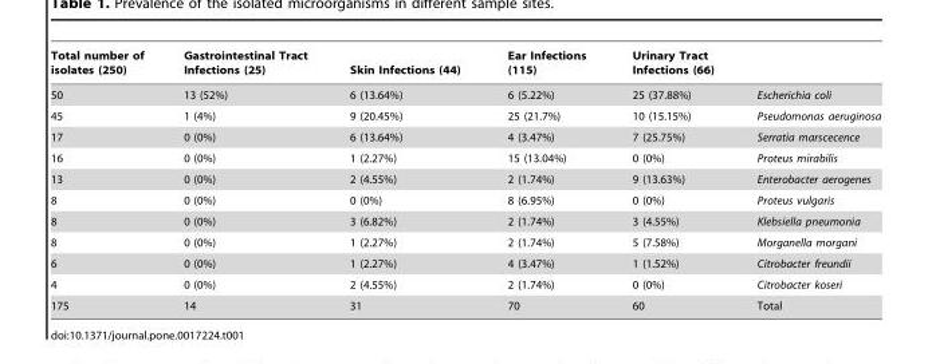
<table><thead><tr><td>Total number of isolates (250)</td><td>Gastrointestinal Tract Infections (25)</td><td>Skin Infections (44)</td><td>Ear Infections (115)</td><td>Urinary Tract Infections (66)</td><td></td></tr></thead><tbody><tr><td>50</td><td>13 (52%)</td><td>6 (13.64%)</td><td>6 (5.22%)</td><td>25 (37.88%)</td><td>Escherichia coli</td></tr><tr><td>45</td><td>1 (4%)</td><td>9 (20.45%)</td><td>25 (21.7%)</td><td>10 (15.15%)</td><td>Pseudomonas aeruginosa</td></tr><tr><td>17</td><td>0 (0%)</td><td>6 (13.64%)</td><td>4 (3.47%)</td><td>7 (25.75%)</td><td>Serratia marscecence</td></tr><tr><td>16</td><td>0 (0%)</td><td>1 (2.27%)</td><td>15 (13.04%)</td><td>0 (0%)</td><td>Proteus mirabilis</td></tr><tr><td>13</td><td>0 (0%)</td><td>2 (4.55%)</td><td>2 (1.74%)</td><td>9 (13.63%)</td><td>Enterobacter aerogenes</td></tr><tr><td>8</td><td>0 (0%)</td><td>0 (0%)</td><td>8 (6.95%)</td><td>0 (0%)</td><td>Proteus vulgaris</td></tr><tr><td>8</td><td>0 (0%)</td><td>3 (6.82%)</td><td>2 (1.74%)</td><td>3 (4.55%)</td><td>Klebsiella pneumonia</td></tr><tr><td>8</td><td>0 (0%)</td><td>1 (2.27%)</td><td>2 (1.74%)</td><td>5 (7.58%)</td><td>Morganella morgani</td></tr><tr><td>6</td><td>0 (0%)</td><td>1 (2.27%)</td><td>4 (3.47%)</td><td>1 (1.52%)</td><td>Citrobacter freundii</td></tr><tr><td>4</td><td>0 (0%)</td><td>2 (4.55%)</td><td>2 (1.74%)</td><td>0 (0%)</td><td>Citrobacter koseri</td></tr><tr><td>175</td><td>14</td><td>31</td><td>70</td><td>60</td><td>Total</td></tr></tbody></table>